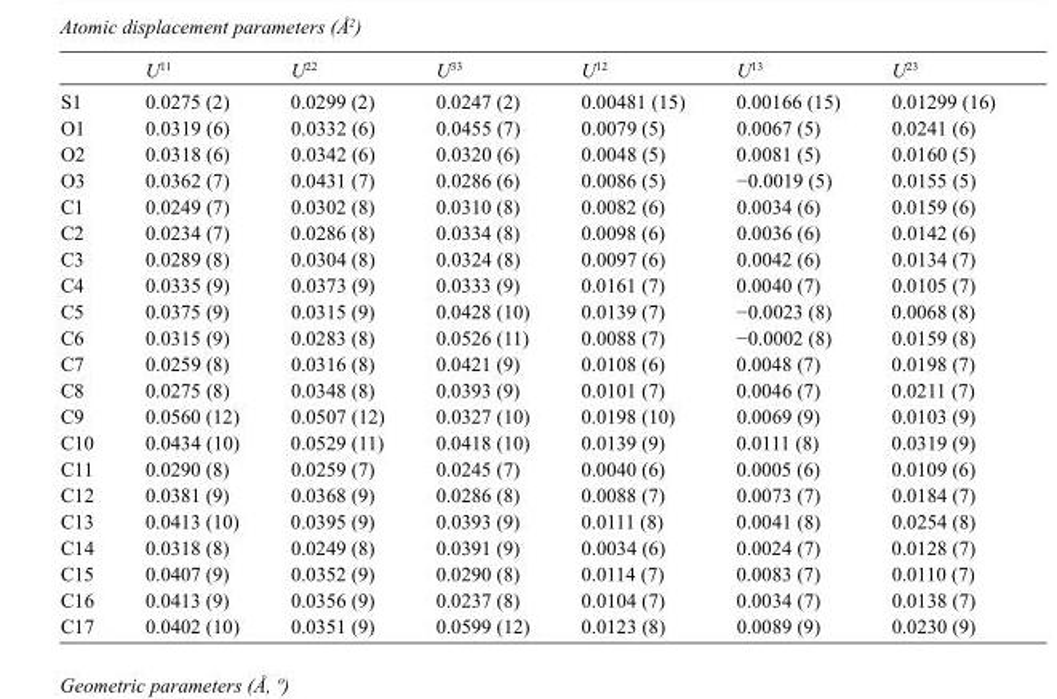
<table><thead><tr><td></td><td>U<sup>11</sup></td><td>U<sup>22</sup></td><td>U<sup>33</sup></td><td>U<sup>12</sup></td><td>U<sup>13</sup></td><td>U<sup>23</sup></td></tr></thead><tbody><tr><td>S1</td><td>0.0275 (2)</td><td>0.0299 (2)</td><td>0.0247 (2)</td><td>0.00481 (15)</td><td>0.00166 (15)</td><td>0.01299 (16)</td></tr><tr><td>O1</td><td>0.0319 (6)</td><td>0.0332 (6)</td><td>0.0455 (7)</td><td>0.0079 (5)</td><td>0.0067 (5)</td><td>0.0241 (6)</td></tr><tr><td>O2</td><td>0.0318 (6)</td><td>0.0342 (6)</td><td>0.0320 (6)</td><td>0.0048 (5)</td><td>0.0081 (5)</td><td>0.0160 (5)</td></tr><tr><td>O3</td><td>0.0362 (7)</td><td>0.0431 (7)</td><td>0.0286 (6)</td><td>0.0086 (5)</td><td>−0.0019 (5)</td><td>0.0155 (5)</td></tr><tr><td>C1</td><td>0.0249 (7)</td><td>0.0302 (8)</td><td>0.0310 (8)</td><td>0.0082 (6)</td><td>0.0034 (6)</td><td>0.0159 (6)</td></tr><tr><td>C2</td><td>0.0234 (7)</td><td>0.0286 (8)</td><td>0.0334 (8)</td><td>0.0098 (6)</td><td>0.0036 (6)</td><td>0.0142 (6)</td></tr><tr><td>C3</td><td>0.0289 (8)</td><td>0.0304 (8)</td><td>0.0324 (8)</td><td>0.0097 (6)</td><td>0.0042 (6)</td><td>0.0134 (7)</td></tr><tr><td>C4</td><td>0.0335 (9)</td><td>0.0373 (9)</td><td>0.0333 (9)</td><td>0.0161 (7)</td><td>0.0040 (7)</td><td>0.0105 (7)</td></tr><tr><td>C5</td><td>0.0375 (9)</td><td>0.0315 (9)</td><td>0.0428 (10)</td><td>0.0139 (7)</td><td>−0.0023 (8)</td><td>0.0068 (8)</td></tr><tr><td>C6</td><td>0.0315 (9)</td><td>0.0283 (8)</td><td>0.0526 (11)</td><td>0.0088 (7)</td><td>−0.0002 (8)</td><td>0.0159 (8)</td></tr><tr><td>C7</td><td>0.0259 (8)</td><td>0.0316 (8)</td><td>0.0421 (9)</td><td>0.0108 (6)</td><td>0.0048 (7)</td><td>0.0198 (7)</td></tr><tr><td>C8</td><td>0.0275 (8)</td><td>0.0348 (8)</td><td>0.0393 (9)</td><td>0.0101 (7)</td><td>0.0046 (7)</td><td>0.0211 (7)</td></tr><tr><td>C9</td><td>0.0560 (12)</td><td>0.0507 (12)</td><td>0.0327 (10)</td><td>0.0198 (10)</td><td>0.0069 (9)</td><td>0.0103 (9)</td></tr><tr><td>C10</td><td>0.0434 (10)</td><td>0.0529 (11)</td><td>0.0418 (10)</td><td>0.0139 (9)</td><td>0.0111 (8)</td><td>0.0319 (9)</td></tr><tr><td>C11</td><td>0.0290 (8)</td><td>0.0259 (7)</td><td>0.0245 (7)</td><td>0.0040 (6)</td><td>0.0005 (6)</td><td>0.0109 (6)</td></tr><tr><td>C12</td><td>0.0381 (9)</td><td>0.0368 (9)</td><td>0.0286 (8)</td><td>0.0088 (7)</td><td>0.0073 (7)</td><td>0.0184 (7)</td></tr><tr><td>C13</td><td>0.0413 (10)</td><td>0.0395 (9)</td><td>0.0393 (9)</td><td>0.0111 (8)</td><td>0.0041 (8)</td><td>0.0254 (8)</td></tr><tr><td>C14</td><td>0.0318 (8)</td><td>0.0249 (8)</td><td>0.0391 (9)</td><td>0.0034 (6)</td><td>0.0024 (7)</td><td>0.0128 (7)</td></tr><tr><td>C15</td><td>0.0407 (9)</td><td>0.0352 (9)</td><td>0.0290 (8)</td><td>0.0114 (7)</td><td>0.0083 (7)</td><td>0.0110 (7)</td></tr><tr><td>C16</td><td>0.0413 (9)</td><td>0.0356 (9)</td><td>0.0237 (8)</td><td>0.0104 (7)</td><td>0.0034 (7)</td><td>0.0138 (7)</td></tr><tr><td>C17</td><td>0.0402 (10)</td><td>0.0351 (9)</td><td>0.0599 (12)</td><td>0.0123 (8)</td><td>0.0089 (9)</td><td>0.0230 (9)</td></tr></tbody></table>